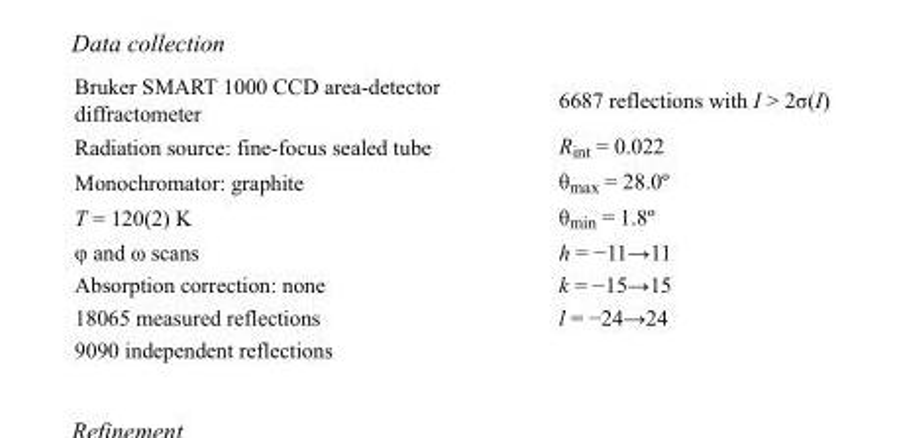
<table><tbody><tr><td>Bruker SMART 1000 CCD area-detector diffractometer</td><td>6687 reflections with I &gt; 2σ(I)</td></tr><tr><td>Radiation source: fine-focus sealed tube</td><td>R<sub>int</sub> = 0.022</td></tr><tr><td>Monochromator: graphite</td><td>θ<sub>max</sub> = 28.0º</td></tr><tr><td>T = 120(2) K</td><td>θ<sub>min</sub> = 1.8º</td></tr><tr><td>φ and ω scans</td><td>h = −11→11</td></tr><tr><td>Absorption correction: none</td><td>k = −15→15</td></tr><tr><td>18065 measured reflections</td><td>l = −24→24</td></tr><tr><td>9090 independent reflections</td><td></td></tr></tbody></table>